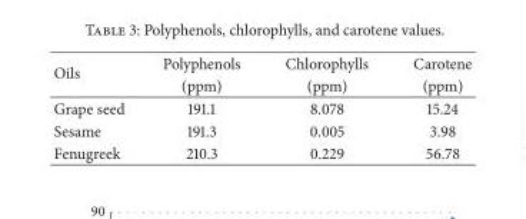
<table><thead><tr><td rowspan="2">Oils</td><td rowspan="2">Polyphenols (ppm)</td><td rowspan="2">Chlorophylls (ppm)</td><td rowspan="2">Carotene (ppm)</td></tr><tr></tr></thead><tbody><tr><td>Grape seed</td><td>191.1</td><td>8.078</td><td>15.24</td></tr><tr><td>Sesame</td><td>191.3</td><td>0.005</td><td>3.98</td></tr><tr><td>Fenugreek</td><td>210.3</td><td>0.229</td><td>56.78</td></tr></tbody></table>